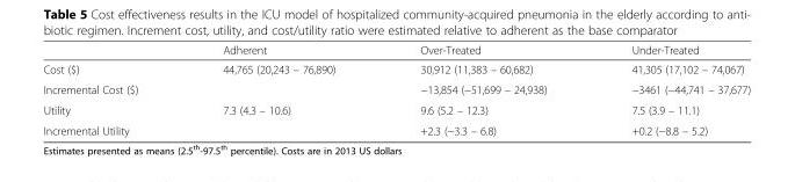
<table><thead><tr><td></td><td>Adherent</td><td>Over-Treated</td><td>Under-Treated</td></tr></thead><tbody><tr><td>Cost ($)</td><td>44,765 (20,243 – 76,890)</td><td>30,912 (11,383 – 60,682)</td><td>41,305 (17,102 – 74,067)</td></tr><tr><td>Incremental Cost ($)</td><td></td><td>−13,854 (−51,699 – 24,938)</td><td>−3461 (−44,741 – 37,677)</td></tr><tr><td>Utility</td><td>7.3 (4.3 – 10.6)</td><td>9.6 (5.2 – 12.3)</td><td>7.5 (3.9 – 11.1)</td></tr><tr><td>Incremental Utility</td><td></td><td>+2.3 (−3.3 – 6.8)</td><td>+0.2 (−8.8 – 5.2)</td></tr></tbody></table>